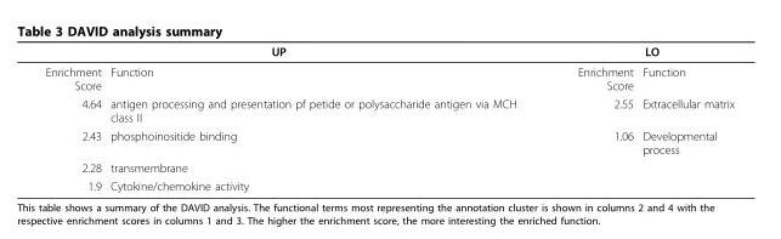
<table><thead><tr><td colspan="2">UP</td><td colspan="2">LO</td></tr><tr><td>Enrichment Score</td><td>Function</td><td>Enrichment Score</td><td>Function</td></tr></thead><tbody><tr><td>4.64</td><td>antigen processing and presentation pf petide or polysaccharide antigen via MCH class II</td><td>2.55</td><td>Extracellular matrix</td></tr><tr><td>2.43</td><td>phosphoinositide binding</td><td>1.06</td><td>Developmental process</td></tr><tr><td>2.28</td><td>transmembrane</td><td></td><td></td></tr><tr><td>1.9</td><td>Cytokine/chemokine activity</td><td></td><td></td></tr></tbody></table>